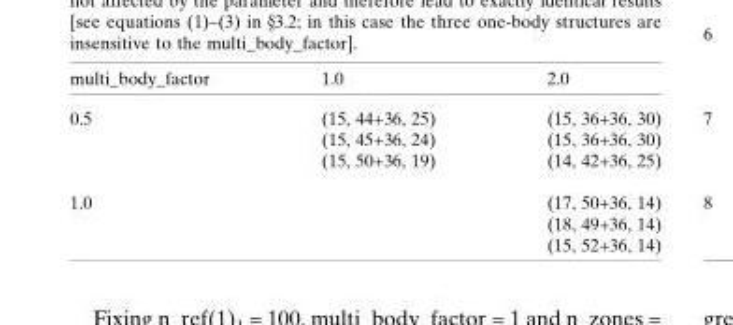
<table><thead><tr><td>multi_body_factor</td><td>1.0</td><td>2.0</td></tr></thead><tbody><tr><td rowspan="3">0.5</td><td>(15, 44+36, 25)</td><td>(15, 36+36, 30)</td></tr><tr><td>(15, 45+36, 24)</td><td>(15, 36+36, 30)</td></tr><tr><td>(15, 50+36, 19)</td><td>(14, 42+36, 25)</td></tr><tr><td rowspan="3">1.0</td><td rowspan="3"></td><td>(17, 50+36, 14)</td></tr><tr><td>(18, 49+36, 14)</td></tr><tr><td>(15, 52+36, 14)</td></tr></tbody></table>